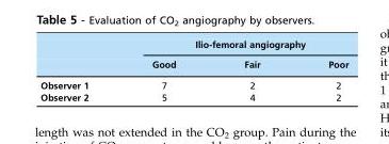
<table><thead><tr><td rowspan="2"></td><td colspan="3">Ilio-femoral angiography</td></tr><tr><td>Good</td><td>Fair</td><td>Poor</td></tr></thead><tbody><tr><td>Observer 1</td><td>7</td><td>2</td><td>2</td></tr><tr><td>Observer 2</td><td>5</td><td>4</td><td>2</td></tr></tbody></table>